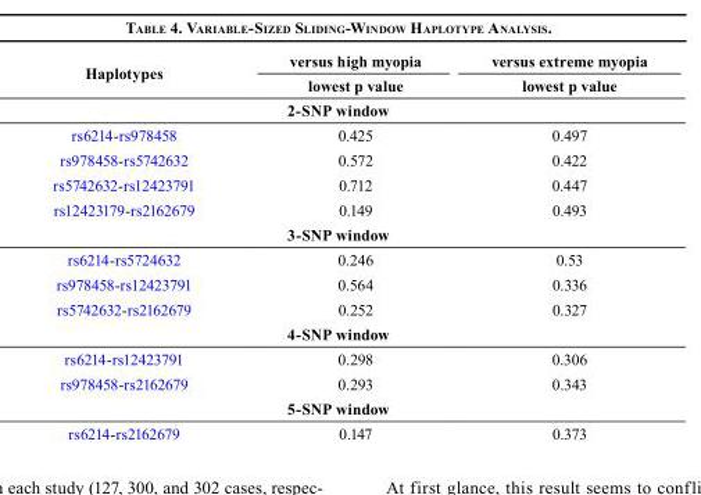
<table><thead><tr><td rowspan="2">Haplotypes</td><td rowspan="2">versus high myopia lowest p value</td><td rowspan="2">versus extreme myopia lowest p value</td></tr><tr></tr></thead><tbody><tr><td colspan="3">2-SNP window</td></tr><tr><td>rs6214-rs978458</td><td>0.425</td><td>0.497</td></tr><tr><td>rs978458-rs5742632</td><td>0.572</td><td>0.422</td></tr><tr><td>rs5742632-rs12423791</td><td>0.712</td><td>0.447</td></tr><tr><td>rs12423179-rs2162679</td><td>0.149</td><td>0.493</td></tr><tr><td colspan="3">3-SNP window</td></tr><tr><td>rs6214-rs5724632</td><td>0.246</td><td>0.53</td></tr><tr><td>rs978458-rs12423791</td><td>0.564</td><td>0.336</td></tr><tr><td>rs5742632-rs2162679</td><td>0.252</td><td>0.327</td></tr><tr><td colspan="3">4-SNP window</td></tr><tr><td>rs6214-rs12423791</td><td>0.298</td><td>0.306</td></tr><tr><td>rs978458-rs2162679</td><td>0.293</td><td>0.343</td></tr><tr><td colspan="3">5-SNP window</td></tr><tr><td>rs6214-rs2162679</td><td>0.147</td><td>0.373</td></tr></tbody></table>